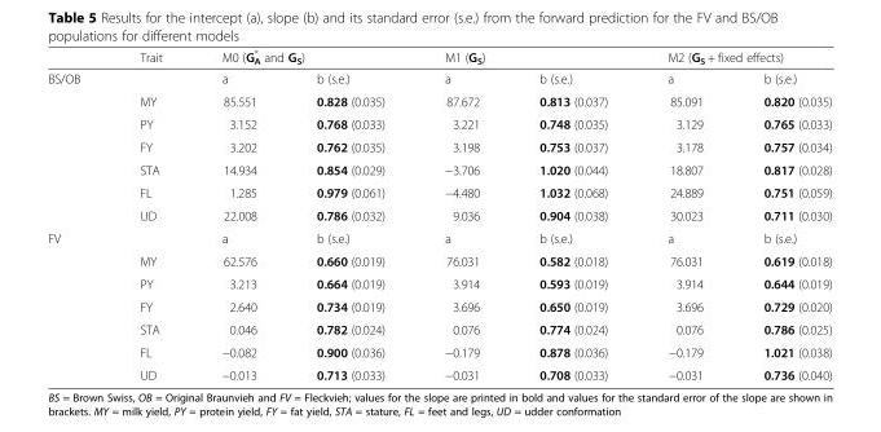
<table><thead><tr><td rowspan="2">BS/OB</td><td rowspan="2">Trait</td><td colspan="2">M0 (G<sub>A</sub> * and G<sub>S</sub>)</td><td colspan="2">M1 (G<sub>S</sub>)</td><td colspan="2">M2 (G<sub>S</sub> + fixed effects)</td></tr><tr><td>a</td><td>b (s.e.)</td><td>a</td><td>b (s.e.)</td><td>a</td><td>b (s.e.)</td></tr></thead><tbody><tr><td rowspan="6"></td><td>MY</td><td>85.551</td><td>0.828 (0.035)</td><td>87.672</td><td>0.813 (0.037)</td><td>85.091</td><td>0.820 (0.035)</td></tr><tr><td>PY</td><td>3.152</td><td>0.768 (0.033)</td><td>3.221</td><td>0.748 (0.035)</td><td>3.129</td><td>0.765 (0.033)</td></tr><tr><td>FY</td><td>3.202</td><td>0.762 (0.035)</td><td>3.198</td><td>0.753 (0.037)</td><td>3.178</td><td>0.757 (0.034)</td></tr><tr><td>STA</td><td>14.934</td><td>0.854 (0.029)</td><td>−3.706</td><td>1.020 (0.044)</td><td>18.807</td><td>0.817 (0.028)</td></tr><tr><td>FL</td><td>1.285</td><td>0.979 (0.061)</td><td>−4.480</td><td>1.032 (0.068)</td><td>24.889</td><td>0.751 (0.059)</td></tr><tr><td>UD</td><td>22.008</td><td>0.786 (0.032)</td><td>9.036</td><td>0.904 (0.038)</td><td>30.023</td><td>0.711 (0.030)</td></tr><tr><td rowspan="7">FV</td><td></td><td>a</td><td>b (s.e.)</td><td>a</td><td>b (s.e.)</td><td>a</td><td>b (s.e.)</td></tr><tr><td>MY</td><td>62.576</td><td>0.660 (0.019)</td><td>76.031</td><td>0.582 (0.018)</td><td>76.031</td><td>0.619 (0.018)</td></tr><tr><td>PY</td><td>3.213</td><td>0.664 (0.019)</td><td>3.914</td><td>0.593 (0.019)</td><td>3.914</td><td>0.644 (0.019)</td></tr><tr><td>FY</td><td>2.640</td><td>0.734 (0.019)</td><td>3.696</td><td>0.650 (0.019)</td><td>3.696</td><td>0.729 (0.020)</td></tr><tr><td>STA</td><td>0.046</td><td>0.782 (0.024)</td><td>0.076</td><td>0.774 (0.024)</td><td>0.076</td><td>0.786 (0.025)</td></tr><tr><td>FL</td><td>−0.082</td><td>0.900 (0.036)</td><td>−0.179</td><td>0.878 (0.036)</td><td>−0.179</td><td>1.021 (0.038)</td></tr><tr><td>UD</td><td>−0.013</td><td>0.713 (0.033)</td><td>−0.031</td><td>0.708 (0.033)</td><td>−0.031</td><td>0.736 (0.040)</td></tr></tbody></table>